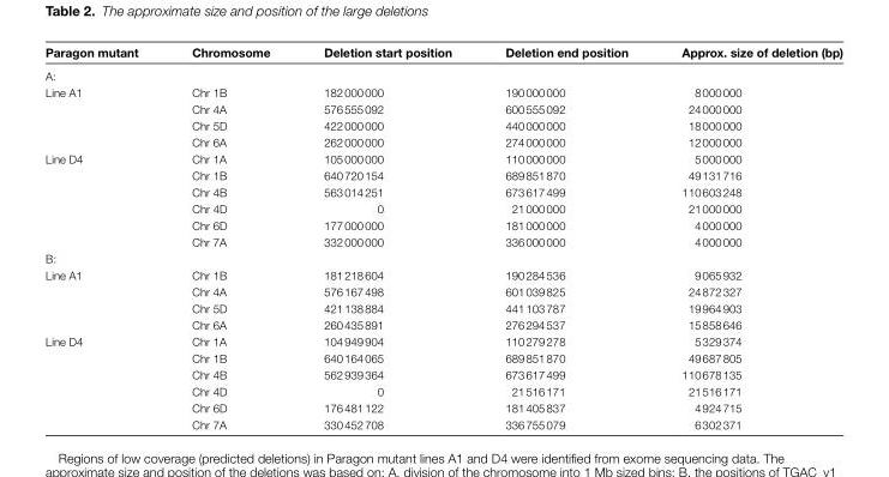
<table><thead><tr><td>Paragon mutant</td><td>Chromosome</td><td>Deletion start position</td><td>Deletion end position</td><td>Approx. size of deletion (bp)</td></tr></thead><tbody><tr><td colspan="5">A:</td></tr><tr><td rowspan="4">Line A1</td><td>Chr 1B</td><td>182 000 000</td><td>190 000 000</td><td>8 000 000</td></tr><tr><td>Chr 4A</td><td>576 555 092</td><td>600 555 092</td><td>24 000 000</td></tr><tr><td>Chr 5D</td><td>422 000 000</td><td>440 000 000</td><td>18 000 000</td></tr><tr><td>Chr 6A</td><td>262 000 000</td><td>274 000 000</td><td>12 000 000</td></tr><tr><td rowspan="6">Line D4</td><td>Chr 1A</td><td>105 000 000</td><td>110 000 000</td><td>5 000 000</td></tr><tr><td>Chr 1B</td><td>640 720 154</td><td>689 851 870</td><td>49 131 716</td></tr><tr><td>Chr 4B</td><td>563 014 251</td><td>673 617 499</td><td>110 603 248</td></tr><tr><td>Chr 4D</td><td>0</td><td>21 000 000</td><td>21 000 000</td></tr><tr><td>Chr 6D</td><td>177 000 000</td><td>181 000 000</td><td>4 000 000</td></tr><tr><td>Chr 7A</td><td>332 000 000</td><td>336 000 000</td><td>4 000 000</td></tr><tr><td colspan="5">B:</td></tr><tr><td rowspan="4">Line A1</td><td>Chr 1B</td><td>181 218 604</td><td>190 284 536</td><td>9 065 932</td></tr><tr><td>Chr 4A</td><td>576 167 498</td><td>601 039 825</td><td>24 872 327</td></tr><tr><td>Chr 5D</td><td>421 138 884</td><td>441 103 787</td><td>19 964 903</td></tr><tr><td>Chr 6A</td><td>260 435 891</td><td>276 294 537</td><td>15 858 646</td></tr><tr><td rowspan="6">Line D4</td><td>Chr 1A</td><td>104 949 904</td><td>110 279 278</td><td>5 329 374</td></tr><tr><td>Chr 1B</td><td>640 164 065</td><td>689 851 870</td><td>49 687 805</td></tr><tr><td>Chr 4B</td><td>562 939 364</td><td>673 617 499</td><td>110 678 135</td></tr><tr><td>Chr 4D</td><td>0</td><td>21 516 171</td><td>21 516 171</td></tr><tr><td>Chr 6D</td><td>176 481 122</td><td>181 405 837</td><td>4 924 715</td></tr><tr><td>Chr 7A</td><td>330 452 708</td><td>336 755 079</td><td>6 302 371</td></tr></tbody></table>